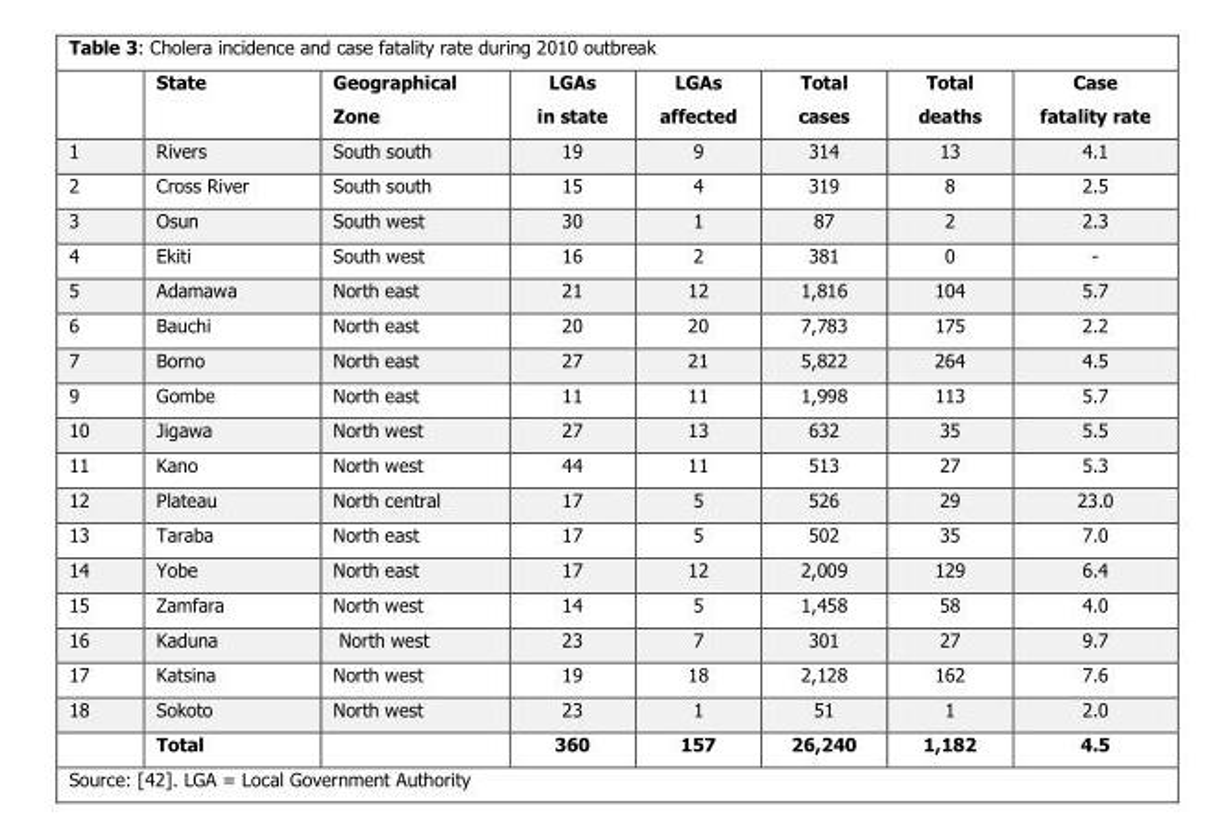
<table><thead><tr><td></td><td>State</td><td>Geographical Zone</td><td>LGAs in state</td><td>LGAs affected</td><td>Total cases</td><td>Total deaths</td><td>Case fatality rate</td></tr></thead><tbody><tr><td>1</td><td>Rivers</td><td>South south</td><td>19</td><td>9</td><td>314</td><td>13</td><td>4.1</td></tr><tr><td>2</td><td>Cross River</td><td>South south</td><td>15</td><td>4</td><td>319</td><td>8</td><td>2.5</td></tr><tr><td>3</td><td>Osun</td><td>South west</td><td>30</td><td>1</td><td>87</td><td>2</td><td>2.3</td></tr><tr><td>4</td><td>Ekiti</td><td>South west</td><td>16</td><td>2</td><td>381</td><td>0</td><td>-</td></tr><tr><td>5</td><td>Adamawa</td><td>North east</td><td>21</td><td>12</td><td>1,816</td><td>104</td><td>5.7</td></tr><tr><td>6</td><td>Bauchi</td><td>North east</td><td>20</td><td>20</td><td>7,783</td><td>175</td><td>2.2</td></tr><tr><td>7</td><td>Borno</td><td>North east</td><td>27</td><td>21</td><td>5,822</td><td>264</td><td>4.5</td></tr><tr><td>9</td><td>Gombe</td><td>North east</td><td>11</td><td>11</td><td>1,998</td><td>113</td><td>5.7</td></tr><tr><td>10</td><td>Jigawa</td><td>North west</td><td>27</td><td>13</td><td>632</td><td>35</td><td>5.5</td></tr><tr><td>11</td><td>Kano</td><td>North west</td><td>44</td><td>11</td><td>513</td><td>27</td><td>5.3</td></tr><tr><td>12</td><td>Plateau</td><td>North central</td><td>17</td><td>5</td><td>526</td><td>29</td><td>23.0</td></tr><tr><td>13</td><td>Taraba</td><td>North east</td><td>17</td><td>5</td><td>502</td><td>35</td><td>7.0</td></tr><tr><td>14</td><td>Yobe</td><td>North east</td><td>17</td><td>12</td><td>2,009</td><td>129</td><td>6.4</td></tr><tr><td>15</td><td>Zamfara</td><td>North west</td><td>14</td><td>5</td><td>1,458</td><td>58</td><td>4.0</td></tr><tr><td>16</td><td>Kaduna</td><td>North west</td><td>23</td><td>7</td><td>301</td><td>27</td><td>9.7</td></tr><tr><td>17</td><td>Katsina</td><td>North west</td><td>19</td><td>18</td><td>2,128</td><td>162</td><td>7.6</td></tr><tr><td rowspan="2">18</td><td>Sokoto</td><td>North west</td><td>23</td><td>1</td><td>51</td><td>1</td><td>2.0</td></tr><tr><td>Total</td><td></td><td>360</td><td>157</td><td>26,240</td><td>1,182</td><td>4.5</td></tr></tbody></table>